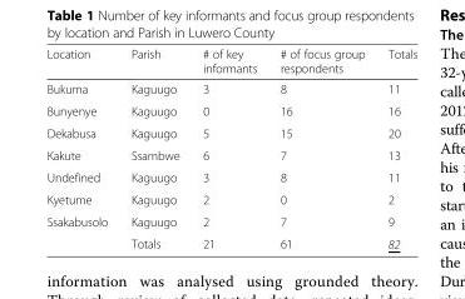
<table><thead><tr><td>Location</td><td>Parish</td><td># of key informants</td><td># of focus group respondents</td><td>Totals</td></tr></thead><tbody><tr><td>Bukuma</td><td>Kaguugo</td><td>3</td><td>8</td><td>11</td></tr><tr><td>Bunyenye</td><td>Kaguugo</td><td>0</td><td>16</td><td>16</td></tr><tr><td>Dekabusa</td><td>Kaguugo</td><td>5</td><td>15</td><td>20</td></tr><tr><td>Kakute</td><td>Ssambwe</td><td>6</td><td>7</td><td>13</td></tr><tr><td>Undefined</td><td>Kaguugo</td><td>3</td><td>8</td><td>11</td></tr><tr><td>Kyetume</td><td>Kaguugo</td><td>2</td><td>0</td><td>2</td></tr><tr><td rowspan="2">Ssakabusolo</td><td>Kaguugo</td><td>2</td><td>7</td><td>9</td></tr><tr><td>Totals</td><td>21</td><td>61</td><td>82</td></tr></tbody></table>